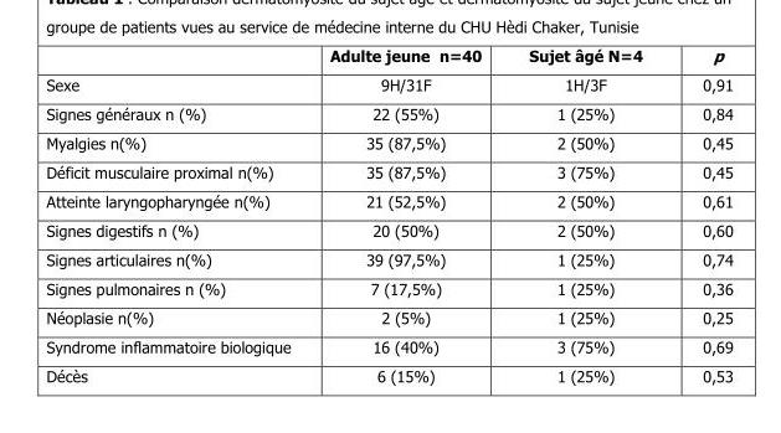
<table><thead><tr><td></td><td>Adulte jeune n=40</td><td>Sujet âgé N=4</td><td>p</td></tr></thead><tbody><tr><td>Sexe</td><td>9H/31F</td><td>1H/3F</td><td>0,91</td></tr><tr><td>Signes généraux n (%)</td><td>22 (55%)</td><td>1 (25%)</td><td>0,84</td></tr><tr><td>Myalgies n(%)</td><td>35 (87,5%)</td><td>2 (50%)</td><td>0,45</td></tr><tr><td>Déficit musculaire proximal n(%)</td><td>35 (87,5%)</td><td>3 (75%)</td><td>0,45</td></tr><tr><td>Atteinte laryngopharyngée n(%)</td><td>21 (52,5%)</td><td>2 (50%)</td><td>0,61</td></tr><tr><td>Signes digestifs n (%)</td><td>20 (50%)</td><td>2 (50%)</td><td>0,60</td></tr><tr><td>Signes articulaires n(%)</td><td>39 (97,5%)</td><td>1 (25%)</td><td>0,74</td></tr><tr><td>Signes pulmonaires n (%)</td><td>7 (17,5%)</td><td>1 (25%)</td><td>0,36</td></tr><tr><td>Néoplasie n(%)</td><td>2 (5%)</td><td>1 (25%)</td><td>0,25</td></tr><tr><td>Syndrome inflammatoire biologique</td><td>16 (40%)</td><td>3 (75%)</td><td>0,69</td></tr><tr><td>Décès</td><td>6 (15%)</td><td>1 (25%)</td><td>0,53</td></tr></tbody></table>